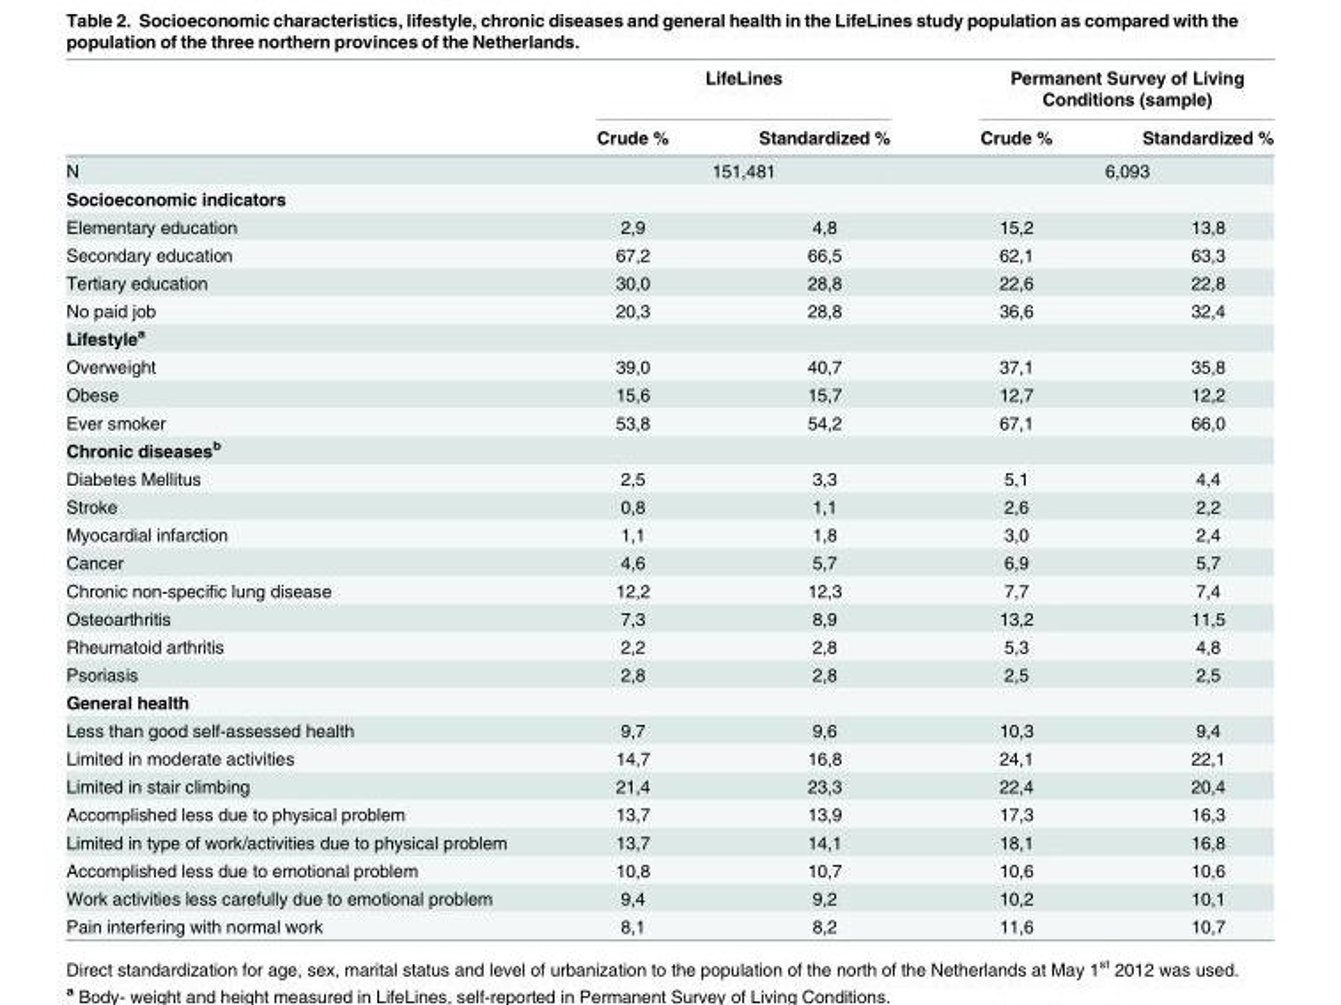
<table><thead><tr><td rowspan="2"></td><td colspan="2">LifeLines</td><td colspan="2">Permanent Survey of Living Conditions (sample)</td></tr><tr><td>Crude %</td><td>Standardized %</td><td>Crude %</td><td>Standardized %</td></tr></thead><tbody><tr><td>N</td><td colspan="2">151,481</td><td colspan="2">6,093</td></tr><tr><td colspan="5">Socioeconomic indicators</td></tr><tr><td>Elementary education</td><td>2,9</td><td>4,8</td><td>15,2</td><td>13,8</td></tr><tr><td>Secondary education</td><td>67,2</td><td>66,5</td><td>62,1</td><td>63,3</td></tr><tr><td>Tertiary education</td><td>30,0</td><td>28,8</td><td>22,6</td><td>22,8</td></tr><tr><td>No paid job</td><td>20,3</td><td>28,8</td><td>36,6</td><td>32,4</td></tr><tr><td colspan="5">Lifestyle<sup>a</sup></td></tr><tr><td>Overweight</td><td>39,0</td><td>40,7</td><td>37,1</td><td>35,8</td></tr><tr><td>Obese</td><td>15,6</td><td>15,7</td><td>12,7</td><td>12,2</td></tr><tr><td>Ever smoker</td><td>53,8</td><td>54,2</td><td>67,1</td><td>66,0</td></tr><tr><td colspan="5">Chronic diseases<sup>b</sup></td></tr><tr><td>Diabetes Mellitus</td><td>2,5</td><td>3,3</td><td>5,1</td><td>4,4</td></tr><tr><td>Stroke</td><td>0,8</td><td>1,1</td><td>2,6</td><td>2,2</td></tr><tr><td>Myocardial infarction</td><td>1,1</td><td>1,8</td><td>3,0</td><td>2,4</td></tr><tr><td>Cancer</td><td>4,6</td><td>5,7</td><td>6,9</td><td>5,7</td></tr><tr><td>Chronic non-specific lung disease</td><td>12,2</td><td>12,3</td><td>7,7</td><td>7,4</td></tr><tr><td>Osteoarthritis</td><td>7,3</td><td>8,9</td><td>13,2</td><td>11,5</td></tr><tr><td>Rheumatoid arthritis</td><td>2,2</td><td>2,8</td><td>5,3</td><td>4,8</td></tr><tr><td>Psoriasis</td><td>2,8</td><td>2,8</td><td>2,5</td><td>2,5</td></tr><tr><td colspan="5">General health</td></tr><tr><td>Less than good self-assessed health</td><td>9,7</td><td>9,6</td><td>10,3</td><td>9,4</td></tr><tr><td>Limited in moderate activities</td><td>14,7</td><td>16,8</td><td>24,1</td><td>22,1</td></tr><tr><td>Limited in stair climbing</td><td>21,4</td><td>23,3</td><td>22,4</td><td>20,4</td></tr><tr><td>Accomplished less due to physical problem</td><td>13,7</td><td>13,9</td><td>17,3</td><td>16,3</td></tr><tr><td>Limited in type of work/activities due to physical problem</td><td>13,7</td><td>14,1</td><td>18,1</td><td>16,8</td></tr><tr><td>Accomplished less due to emotional problem</td><td>10,8</td><td>10,7</td><td>10,6</td><td>10,6</td></tr><tr><td>Work activities less carefully due to emotional problem</td><td>9,4</td><td>9,2</td><td>10,2</td><td>10,1</td></tr><tr><td>Pain interfering with normal work</td><td>8,1</td><td>8,2</td><td>11,6</td><td>10,7</td></tr></tbody></table>